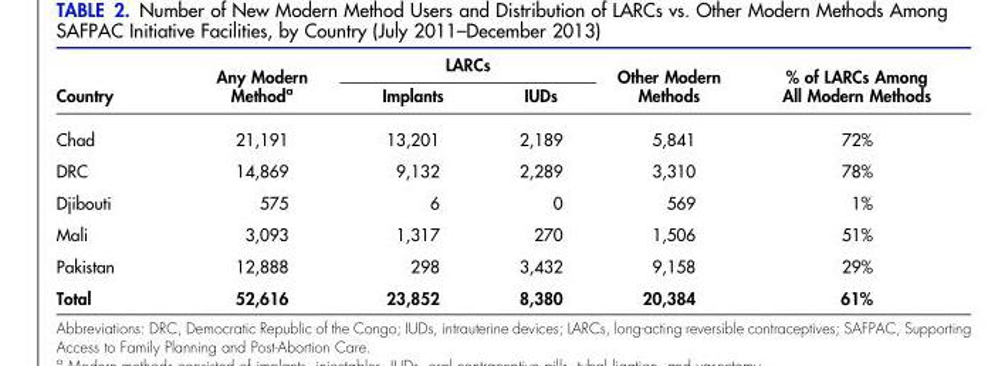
<table><thead><tr><td rowspan="2">Country</td><td rowspan="2">Any Modern Method<sup>a</sup></td><td colspan="2">LARCs</td><td rowspan="2">Other Modern Methods</td><td rowspan="2">% of LARCs Among All Modern Methods</td></tr><tr><td>Implants</td><td>IUDs</td></tr></thead><tbody><tr><td>Chad</td><td>21,191</td><td>13,201</td><td>2,189</td><td>5,841</td><td>72%</td></tr><tr><td>DRC</td><td>14,869</td><td>9,132</td><td>2,289</td><td>3,310</td><td>78%</td></tr><tr><td>Djibouti</td><td>575</td><td>6</td><td>0</td><td>569</td><td>1%</td></tr><tr><td>Mali</td><td>3,093</td><td>1,317</td><td>270</td><td>1,506</td><td>51%</td></tr><tr><td>Pakistan</td><td>12,888</td><td>298</td><td>3,432</td><td>9,158</td><td>29%</td></tr><tr><td>Total</td><td>52,616</td><td>23,852</td><td>8,380</td><td>20,384</td><td>61%</td></tr></tbody></table>